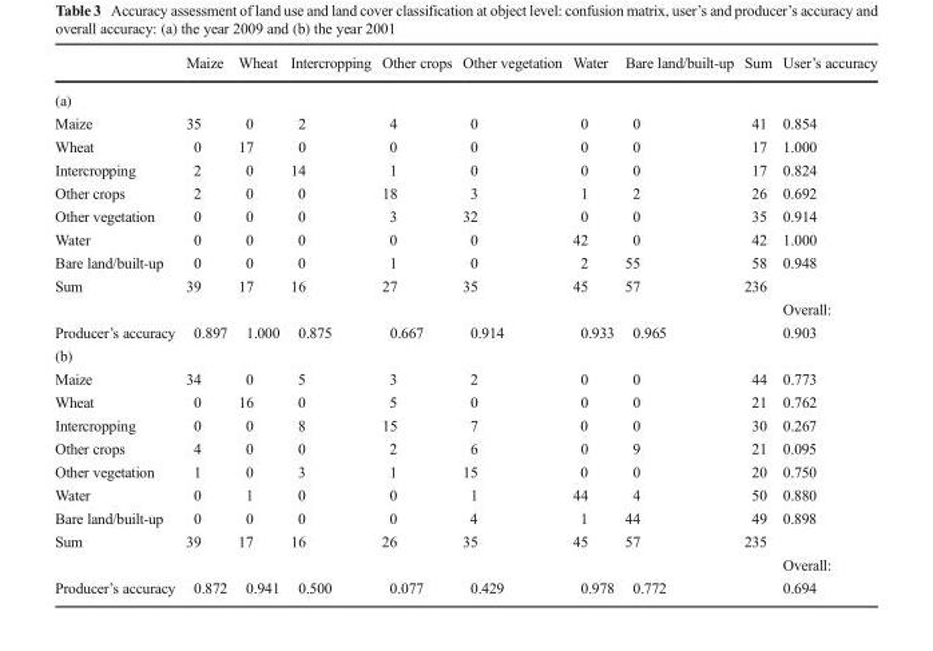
<table><thead><tr><td></td><td>Maize</td><td>Wheat</td><td>Intercropping</td><td>Other crops</td><td>Other vegetation</td><td>Water</td><td>Bare land/built-up</td><td>Sum</td><td>User’s accuracy</td></tr></thead><tbody><tr><td colspan="10">(a)</td></tr><tr><td>Maize</td><td>35</td><td>0</td><td>2</td><td>4</td><td>0</td><td>0</td><td>0</td><td>41</td><td>0.854</td></tr><tr><td>Wheat</td><td>0</td><td>17</td><td>0</td><td>0</td><td>0</td><td>0</td><td>0</td><td>17</td><td>1.000</td></tr><tr><td>Intercropping</td><td>2</td><td>0</td><td>14</td><td>1</td><td>0</td><td>0</td><td>0</td><td>17</td><td>0.824</td></tr><tr><td>Other crops</td><td>2</td><td>0</td><td>0</td><td>18</td><td>3</td><td>1</td><td>2</td><td>26</td><td>0.692</td></tr><tr><td>Other vegetation</td><td>0</td><td>0</td><td>0</td><td>3</td><td>32</td><td>0</td><td>0</td><td>35</td><td>0.914</td></tr><tr><td>Water</td><td>0</td><td>0</td><td>0</td><td>0</td><td>0</td><td>42</td><td>0</td><td>42</td><td>1.000</td></tr><tr><td>Bare land/built-up</td><td>0</td><td>0</td><td>0</td><td>1</td><td>0</td><td>2</td><td>55</td><td>58</td><td>0.948</td></tr><tr><td>Sum</td><td>39</td><td>17</td><td>16</td><td>27</td><td>35</td><td>45</td><td>57</td><td>236</td><td></td></tr><tr><td colspan="9"></td><td>Overall:</td></tr><tr><td>Producer’s accuracy</td><td>0.897</td><td>1.000</td><td>0.875</td><td>0.667</td><td>0.914</td><td>0.933</td><td>0.965</td><td></td><td>0.903</td></tr><tr><td colspan="10">(b)</td></tr><tr><td>Maize</td><td>34</td><td>0</td><td>5</td><td>3</td><td>2</td><td>0</td><td>0</td><td>44</td><td>0.773</td></tr><tr><td>Wheat</td><td>0</td><td>16</td><td>0</td><td>5</td><td>0</td><td>0</td><td>0</td><td>21</td><td>0.762</td></tr><tr><td>Intercropping</td><td>0</td><td>0</td><td>8</td><td>15</td><td>7</td><td>0</td><td>0</td><td>30</td><td>0.267</td></tr><tr><td>Other crops</td><td>4</td><td>0</td><td>0</td><td>2</td><td>6</td><td>0</td><td>9</td><td>21</td><td>0.095</td></tr><tr><td>Other vegetation</td><td>1</td><td>0</td><td>3</td><td>1</td><td>15</td><td>0</td><td>0</td><td>20</td><td>0.750</td></tr><tr><td>Water</td><td>0</td><td>1</td><td>0</td><td>0</td><td>1</td><td>44</td><td>4</td><td>50</td><td>0.880</td></tr><tr><td>Bare land/built-up</td><td>0</td><td>0</td><td>0</td><td>0</td><td>4</td><td>1</td><td>44</td><td>49</td><td>0.898</td></tr><tr><td>Sum</td><td>39</td><td>17</td><td>16</td><td>26</td><td>35</td><td>45</td><td>57</td><td>235</td><td></td></tr><tr><td colspan="9"></td><td>Overall:</td></tr><tr><td>Producer’s accuracy</td><td>0.872</td><td>0.941</td><td>0.500</td><td>0.077</td><td>0.429</td><td>0.978</td><td>0.772</td><td></td><td>0.694</td></tr></tbody></table>